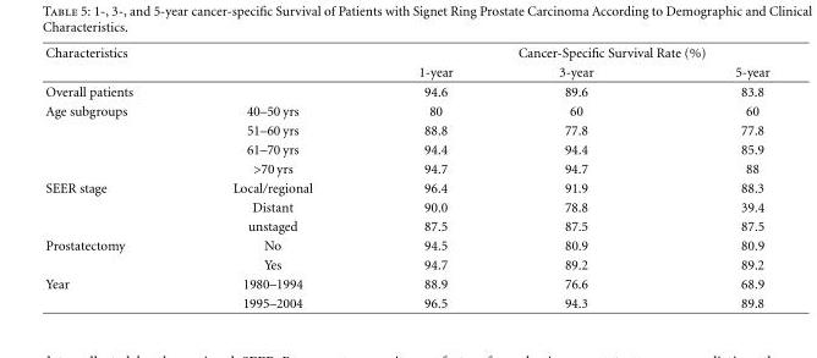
<table><thead><tr><td rowspan="2">Characteristics</td><td rowspan="2"></td><td colspan="3">Cancer-Specific Survival Rate (%)</td></tr><tr><td>1-year</td><td>3-year</td><td>5-year</td></tr></thead><tbody><tr><td>Overall patients</td><td></td><td>94.6</td><td>89.6</td><td>83.8</td></tr><tr><td rowspan="4">Age subgroups</td><td>40–50 yrs</td><td>80</td><td>60</td><td>60</td></tr><tr><td>51–60 yrs</td><td>88.8</td><td>77.8</td><td>77.8</td></tr><tr><td>61–70 yrs</td><td>94.4</td><td>94.4</td><td>85.9</td></tr><tr><td>&gt;70 yrs</td><td>94.7</td><td>94.7</td><td>88</td></tr><tr><td rowspan="3">SEER stage</td><td>Local/regional</td><td>96.4</td><td>91.9</td><td>88.3</td></tr><tr><td>Distant</td><td>90.0</td><td>78.8</td><td>39.4</td></tr><tr><td>unstaged</td><td>87.5</td><td>87.5</td><td>87.5</td></tr><tr><td rowspan="2">Prostatectomy</td><td>No</td><td>94.5</td><td>80.9</td><td>80.9</td></tr><tr><td>Yes</td><td>94.7</td><td>89.2</td><td>89.2</td></tr><tr><td rowspan="2">Year</td><td>1980–1994</td><td>88.9</td><td>76.6</td><td>68.9</td></tr><tr><td>1995–2004</td><td>96.5</td><td>94.3</td><td>89.8</td></tr></tbody></table>